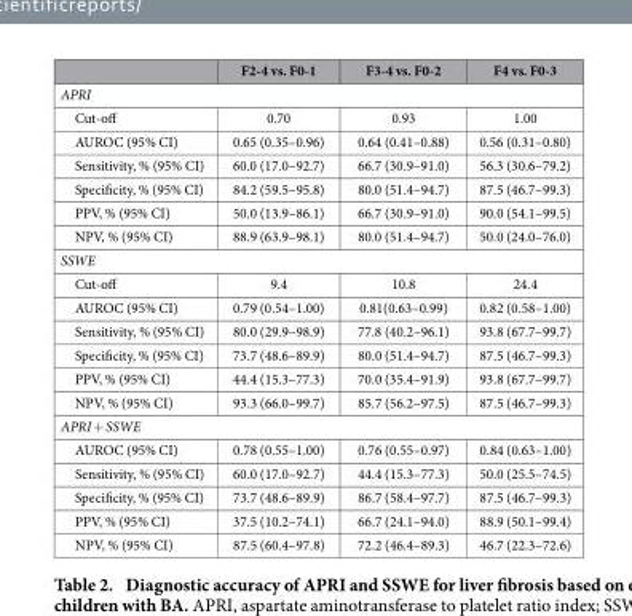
<table><thead><tr><td></td><td>F2-4 vs. F0-1</td><td>F3-4 vs. F0-2</td><td>F4 vs. F0-3</td></tr></thead><tbody><tr><td colspan="4">APRI</td></tr><tr><td>Cut-off</td><td>0.70</td><td>0.93</td><td>1.00</td></tr><tr><td>AUROC (95% CI)</td><td>0.65 (0.35–0.96)</td><td>0.64 (0.41–0.88)</td><td>0.56 (0.31–0.80)</td></tr><tr><td>Sensitivity, % (95% CI)</td><td>60.0 (17.0–92.7)</td><td>66.7 (30.9–91.0)</td><td>56.3 (30.6–79.2)</td></tr><tr><td>Specificity, % (95% CI)</td><td>84.2 (59.5–95.8)</td><td>80.0 (51.4–94.7)</td><td>87.5 (46.7–99.3)</td></tr><tr><td>PPV, % (95% CI)</td><td>50.0 (13.9–86.1)</td><td>66.7 (30.9–91.0)</td><td>90.0 (54.1–99.5)</td></tr><tr><td>NPV, % (95% CI)</td><td>88.9 (63.9–98.1)</td><td>80.0 (51.4–94.7)</td><td>50.0 (24.0–76.0)</td></tr><tr><td colspan="4">SSWE</td></tr><tr><td>Cut-off</td><td>9.4</td><td>10.8</td><td>24.4</td></tr><tr><td>AUROC (95% CI)</td><td>0.79 (0.54–1.00)</td><td>0.81(0.63–0.99)</td><td>0.82 (0.58–1.00)</td></tr><tr><td>Sensitivity, % (95% CI)</td><td>80.0 (29.9–98.9)</td><td>77.8 (40.2–96.1)</td><td>93.8 (67.7–99.7)</td></tr><tr><td>Specificity, % (95% CI)</td><td>73.7 (48.6–89.9)</td><td>80.0 (51.4–94.7)</td><td>87.5 (46.7–99.3)</td></tr><tr><td>PPV, % (95% CI)</td><td>44.4 (15.3–77.3)</td><td>70.0 (35.4–91.9)</td><td>93.8 (67.7–99.7)</td></tr><tr><td>NPV, % (95% CI)</td><td>93.3 (66.0–99.7)</td><td>85.7 (56.2–97.5)</td><td>87.5 (46.7–99.3)</td></tr><tr><td colspan="4">APRI + SSWE</td></tr><tr><td>AUROC (95% CI)</td><td>0.78 (0.55–1.00)</td><td>0.76 (0.55–0.97)</td><td>0.84 (0.63–1.00)</td></tr><tr><td>Sensitivity, % (95% CI)</td><td>60.0 (17.0–92.7)</td><td>44.4 (15.3–77.3)</td><td>50.0 (25.5–74.5)</td></tr><tr><td>Specificity, % (95% CI)</td><td>73.7 (48.6–89.9)</td><td>86.7 (58.4–97.7)</td><td>87.5 (46.7–99.3)</td></tr><tr><td>PPV, % (95% CI)</td><td>37.5 (10.2–74.1)</td><td>66.7 (24.1–94.0)</td><td>88.9 (50.1–99.4)</td></tr><tr><td>NPV, % (95% CI)</td><td>87.5 (60.4–97.8)</td><td>72.2 (46.4–89.3)</td><td>46.7 (22.3–72.6)</td></tr></tbody></table>